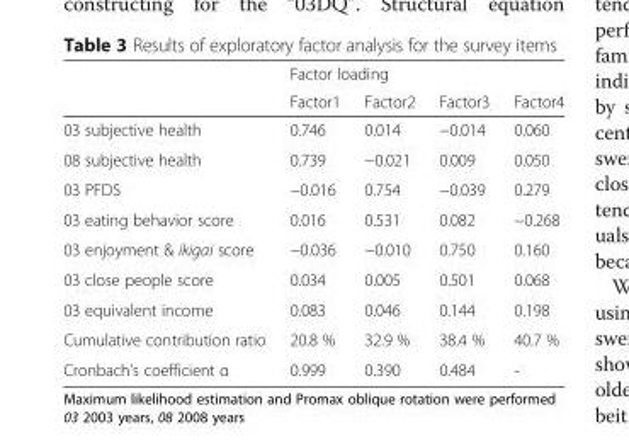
<table><thead><tr><td rowspan="2"></td><td colspan="4">Factor loading</td></tr><tr><td>Factor1</td><td>Factor2</td><td>Factor3</td><td>Factor4</td></tr></thead><tbody><tr><td>03 subjective health</td><td>0.746</td><td>0.014</td><td>−0.014</td><td>0.060</td></tr><tr><td>08 subjective health</td><td>0.739</td><td>−0.021</td><td>0.009</td><td>0.050</td></tr><tr><td>03 PFDS</td><td>−0.016</td><td>0.754</td><td>−0.039</td><td>0.279</td></tr><tr><td>03 eating behavior score</td><td>0.016</td><td>0.531</td><td>0.082</td><td>−0.268</td></tr><tr><td>03 enjoyment &amp; ikigai score</td><td>−0.036</td><td>−0.010</td><td>0.750</td><td>0.160</td></tr><tr><td>03 close people score</td><td>0.034</td><td>0.005</td><td>0.501</td><td>0.068</td></tr><tr><td>03 equivalent income</td><td>0.083</td><td>0.046</td><td>0.144</td><td>0.198</td></tr><tr><td>Cumulative contribution ratio</td><td>20.8 %</td><td>32.9 %</td><td>38.4 %</td><td>40.7 %</td></tr><tr><td>Cronbach’s coefficient α</td><td>0.999</td><td>0.390</td><td>0.484</td><td>-</td></tr></tbody></table>